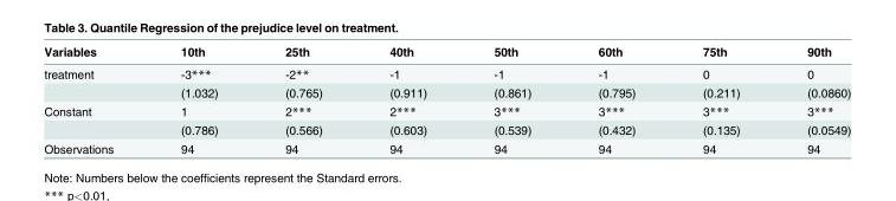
<table><thead><tr><td>Variables</td><td>10th</td><td>25th</td><td>40th</td><td>50th</td><td>60th</td><td>75th</td><td>90th</td></tr></thead><tbody><tr><td rowspan="2">treatment</td><td>-3***</td><td>-2**</td><td>-1</td><td>-1</td><td>-1</td><td>0</td><td>0</td></tr><tr><td>(1.032)</td><td>(0.765)</td><td>(0.911)</td><td>(0.861)</td><td>(0.795)</td><td>(0.211)</td><td>(0.0860)</td></tr><tr><td rowspan="2">Constant</td><td>1</td><td>2***</td><td>2***</td><td>3***</td><td>3***</td><td>3***</td><td>3***</td></tr><tr><td>(0.786)</td><td>(0.566)</td><td>(0.603)</td><td>(0.539)</td><td>(0.432)</td><td>(0.135)</td><td>(0.0549)</td></tr><tr><td>Observations</td><td>94</td><td>94</td><td>94</td><td>94</td><td>94</td><td>94</td><td>94</td></tr></tbody></table>